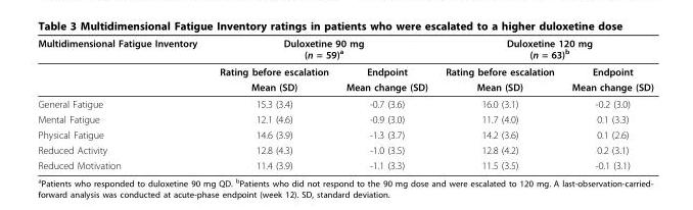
<table><thead><tr><td rowspan="2">Multidimensional Fatigue Inventory</td><td colspan="2">Duloxetine 90 mg (n = 59)<sup>a</sup></td><td colspan="2">Duloxetine 120 mg (n = 63)<sup>b</sup></td></tr><tr><td>Rating before escalation</td><td>Endpoint</td><td>Rating before escalation</td><td>Endpoint</td></tr></thead><tbody><tr><td></td><td>Mean (SD)</td><td>Mean change (SD)</td><td>Mean (SD)</td><td>Mean change (SD)</td></tr><tr><td>General Fatigue</td><td>15.3 (3.4)</td><td>-0.7 (3.6)</td><td>16.0 (3.1)</td><td>-0.2 (3.0)</td></tr><tr><td>Mental Fatigue</td><td>12.1 (4.6)</td><td>-0.9 (3.0)</td><td>11.7 (4.0)</td><td>0.1 (3.3)</td></tr><tr><td>Physical Fatigue</td><td>14.6 (3.9)</td><td>-1.3 (3.7)</td><td>14.2 (3.6)</td><td>0.1 (2.6)</td></tr><tr><td>Reduced Activity</td><td>12.8 (4.3)</td><td>-1.0 (3.5)</td><td>12.8 (4.2)</td><td>0.2 (3.1)</td></tr><tr><td>Reduced Motivation</td><td>11.4 (3.9)</td><td>-1.1 (3.3)</td><td>11.5 (3.5)</td><td>-0.1 (3.1)</td></tr></tbody></table>